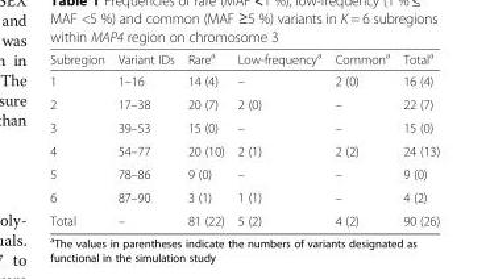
<table><thead><tr><td>Subregion</td><td>Variant IDs</td><td>Rare<sup>a</sup></td><td>Low-frequency<sup>a</sup></td><td>Common<sup>a</sup></td><td>Total<sup>a</sup></td></tr></thead><tbody><tr><td>1</td><td>1–16</td><td>14 (4)</td><td>–</td><td>2 (0)</td><td>16 (4)</td></tr><tr><td>2</td><td>17–38</td><td>20 (7)</td><td>2 (0)</td><td>–</td><td>22 (7)</td></tr><tr><td>3</td><td>39–53</td><td>15 (0)</td><td>–</td><td>–</td><td>15 (0)</td></tr><tr><td>4</td><td>54–77</td><td>20 (10)</td><td>2 (1)</td><td>2 (2)</td><td>24 (13)</td></tr><tr><td>5</td><td>78–86</td><td>9 (0)</td><td>–</td><td>–</td><td>9 (0)</td></tr><tr><td>6</td><td>87–90</td><td>3 (1)</td><td>1 (1)</td><td>–</td><td>4 (2)</td></tr><tr><td>Total</td><td>–</td><td>81 (22)</td><td>5 (2)</td><td>4 (2)</td><td>90 (26)</td></tr></tbody></table>